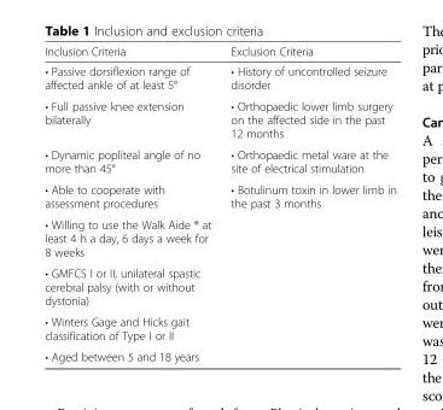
<table><thead><tr><td>Inclusion Criteria</td><td>Exclusion Criteria</td></tr></thead><tbody><tr><td>• Passive dorsiflexion range of affected ankle of at least 5°</td><td>• History of uncontrolled seizure disorder</td></tr><tr><td>• Full passive knee extension bilaterally</td><td>• Orthopaedic lower limb surgery on the affected side in the past 12 months</td></tr><tr><td>• Dynamic popliteal angle of no more than 45°</td><td>• Orthopaedic metal ware at the site of electrical stimulation</td></tr><tr><td>• Able to cooperate with assessment procedures</td><td rowspan="5">• Botulinum toxin in lower limb in the past 3 months</td></tr><tr><td>• Willing to use the Walk Aide ® at least 4 h a day, 6 days a week for 8 weeks</td></tr><tr><td>• GMFCS I or II, unilateral spastic cerebral palsy (with or without dystonia)</td></tr><tr><td>• Winters Gage and Hicks gait classification of Type I or II</td></tr><tr><td>• Aged between 5 and 18 years</td></tr></tbody></table>